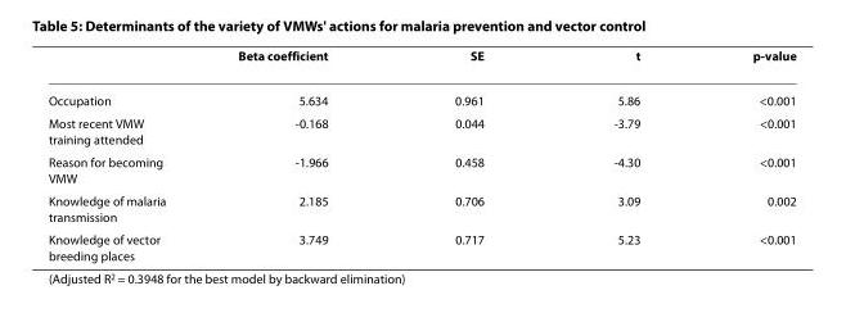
<table><thead><tr><td></td><td>Beta coefficient</td><td>SE</td><td>t</td><td>p-value</td></tr></thead><tbody><tr><td>Occupation</td><td>5.634</td><td>0.961</td><td>5.86</td><td>&lt;0.001</td></tr><tr><td>Most recent VMW training attended</td><td>-0.168</td><td>0.044</td><td>-3.79</td><td>&lt;0.001</td></tr><tr><td>Reason for becoming VMW</td><td>-1.966</td><td>0.458</td><td>-4.30</td><td>&lt;0.001</td></tr><tr><td>Knowledge of malaria transmission</td><td>2.185</td><td>0.706</td><td>3.09</td><td>0.002</td></tr><tr><td>Knowledge of vector breeding places</td><td>3.749</td><td>0.717</td><td>5.23</td><td>&lt;0.001</td></tr></tbody></table>